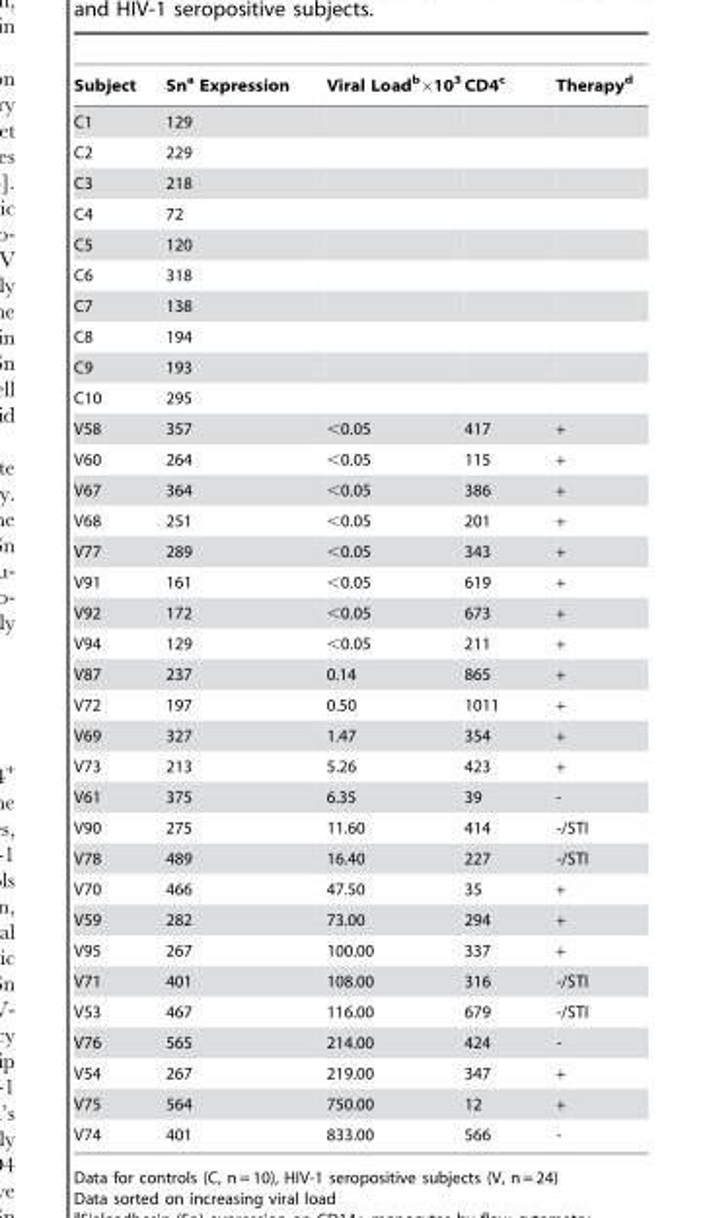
<table><thead><tr><td>Subject</td><td>Sn<sup>a</sup> Expression</td><td>Viral Load<sup>b</sup>×10<sup>3</sup></td><td>CD4<sup>c</sup></td><td>Therapy<sup>d</sup></td></tr></thead><tbody><tr><td>C1</td><td>129</td><td></td><td></td><td></td></tr><tr><td>C2</td><td>229</td><td></td><td></td><td></td></tr><tr><td>C3</td><td>218</td><td></td><td></td><td></td></tr><tr><td>C4</td><td>72</td><td></td><td></td><td></td></tr><tr><td>C5</td><td>120</td><td></td><td></td><td></td></tr><tr><td>C6</td><td>318</td><td></td><td></td><td></td></tr><tr><td>C7</td><td>138</td><td></td><td></td><td></td></tr><tr><td>C8</td><td>194</td><td></td><td></td><td></td></tr><tr><td>C9</td><td>193</td><td></td><td></td><td></td></tr><tr><td>C10</td><td>295</td><td></td><td></td><td></td></tr><tr><td>V58</td><td>357</td><td>&lt;0.05</td><td>417</td><td>+</td></tr><tr><td>V60</td><td>264</td><td>&lt;0.05</td><td>115</td><td>+</td></tr><tr><td>V67</td><td>364</td><td>&lt;0.05</td><td>386</td><td>+</td></tr><tr><td>V68</td><td>251</td><td>&lt;0.05</td><td>201</td><td>+</td></tr><tr><td>V77</td><td>289</td><td>&lt;0.05</td><td>343</td><td>+</td></tr><tr><td>V91</td><td>161</td><td>&lt;0.05</td><td>619</td><td>+</td></tr><tr><td>V92</td><td>172</td><td>&lt;0.05</td><td>673</td><td>+</td></tr><tr><td>V94</td><td>129</td><td>&lt;0.05</td><td>211</td><td>+</td></tr><tr><td>V87</td><td>237</td><td>0.14</td><td>865</td><td>+</td></tr><tr><td>V72</td><td>197</td><td>0.50</td><td>1011</td><td>+</td></tr><tr><td>V69</td><td>327</td><td>1.47</td><td>354</td><td>+</td></tr><tr><td>V73</td><td>213</td><td>5.26</td><td>423</td><td>+</td></tr><tr><td>V61</td><td>375</td><td>6.35</td><td>39</td><td>-</td></tr><tr><td>V90</td><td>275</td><td>11.60</td><td>414</td><td>-/STI</td></tr><tr><td>V78</td><td>489</td><td>16.40</td><td>227</td><td>-/STI</td></tr><tr><td>V70</td><td>466</td><td>47.50</td><td>35</td><td>+</td></tr><tr><td>V59</td><td>282</td><td>73.00</td><td>294</td><td>+</td></tr><tr><td>V95</td><td>267</td><td>100.00</td><td>337</td><td>+</td></tr><tr><td>V71</td><td>401</td><td>108.00</td><td>316</td><td>-/STI</td></tr><tr><td>V53</td><td>467</td><td>116.00</td><td>679</td><td>-/STI</td></tr><tr><td>V76</td><td>565</td><td>214.00</td><td>424</td><td>-</td></tr><tr><td>V54</td><td>267</td><td>219.00</td><td>347</td><td>+</td></tr><tr><td>V75</td><td>564</td><td>750.00</td><td>12</td><td>+</td></tr><tr><td>V74</td><td>401</td><td>833.00</td><td>566</td><td>-</td></tr></tbody></table>